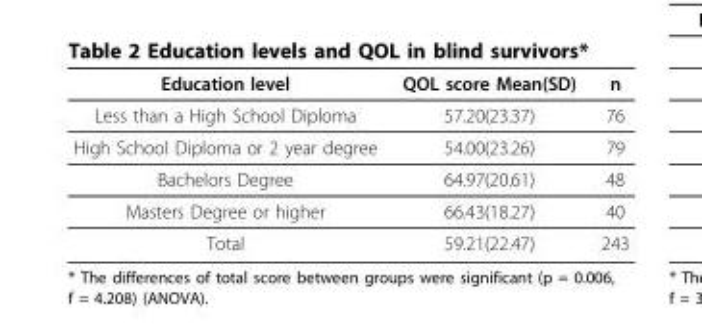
<table><thead><tr><td>Education level</td><td>QOL score Mean(SD)</td><td>n</td></tr></thead><tbody><tr><td>Less than a High School Diploma</td><td>57.20(23.37)</td><td>76</td></tr><tr><td>High School Diploma or 2 year degree</td><td>54.00(23.26)</td><td>79</td></tr><tr><td>Bachelors Degree</td><td>64.97(20.61)</td><td>48</td></tr><tr><td>Masters Degree or higher</td><td>66.43(18.27)</td><td>40</td></tr><tr><td>Total</td><td>59.21(22.47)</td><td>243</td></tr></tbody></table>